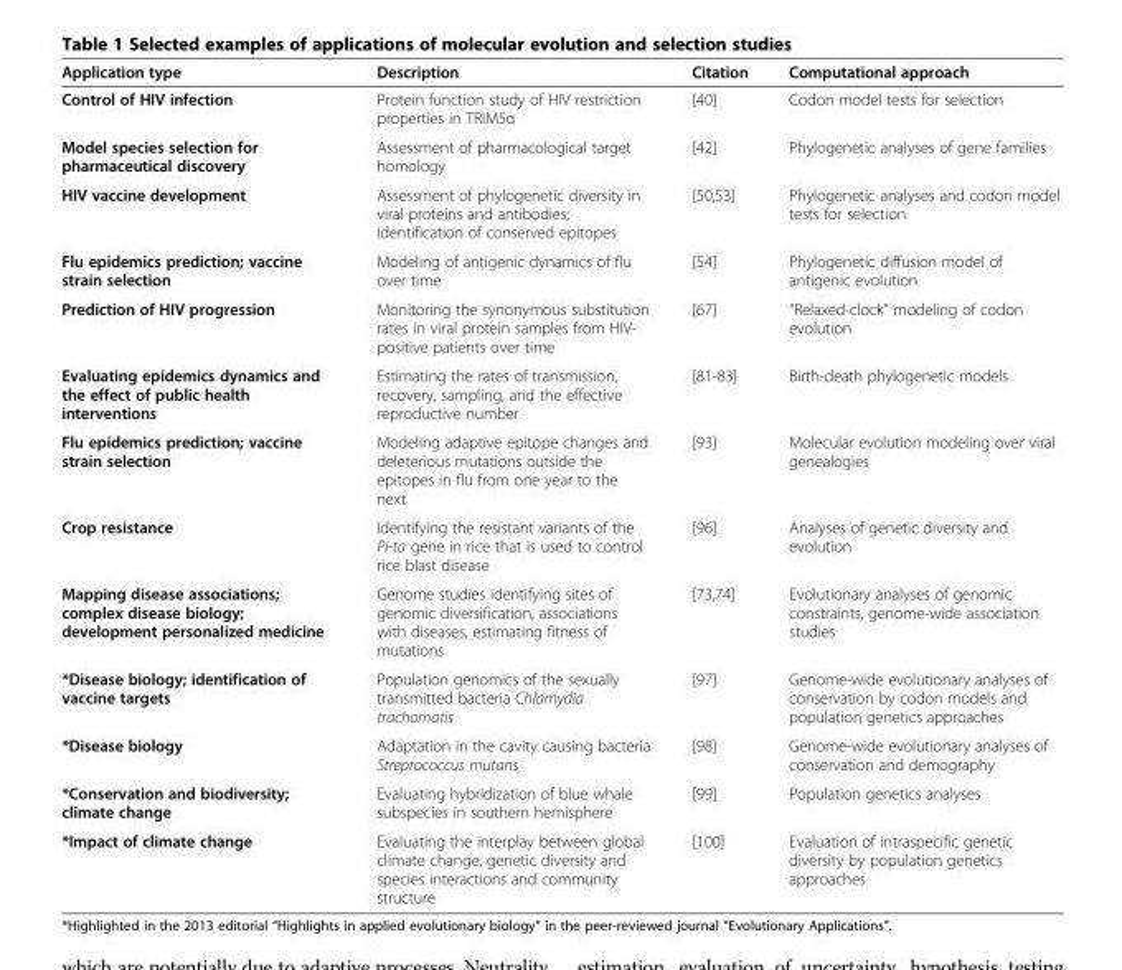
<table><thead><tr><td>Application type</td><td>Description</td><td>Citation</td><td>Computational approach</td></tr></thead><tbody><tr><td>Control of HIV infection</td><td>Protein function study of HIV restriction properties in TRIM5α</td><td>[40]</td><td>Codon model tests for selection</td></tr><tr><td>Model species selection for pharmaceutical discovery</td><td>Assessment of pharmacological target homology</td><td>[42]</td><td>Phylogenetic analyses of gene families</td></tr><tr><td>HIV vaccine development</td><td>Assessment of phylogenetic diversity in viral proteins and antibodies; identification of conserved epitopes</td><td>[50,53]</td><td>Phylogenetic analyses and codon model tests for selection</td></tr><tr><td>Flu epidemics prediction; vaccine strain selection</td><td>Modeling of antigenic dynamics of flu over time</td><td>[54]</td><td>Phylogenetic diffusion model of antigenic evolution</td></tr><tr><td>Prediction of HIV progression</td><td>Monitoring the synonymous substitution rates in viral protein samples from HIV- positive patients over time</td><td>[67]</td><td>“Relaxed-clock” modeling of codon evolution</td></tr><tr><td>Evaluating epidemics dynamics and the effect of public health interventions</td><td>Estimating the rates of transmission, recovery, sampling, and the effective reproductive number</td><td>[81-83]</td><td>Birth-death phylogenetic models</td></tr><tr><td>Flu epidemics prediction; vaccine strain selection</td><td>Modeling adaptive epitope changes and deleterious mutations outside the epitopes in flu from one year to the next</td><td>[93]</td><td>Molecular evolution modeling over viral genealogies</td></tr><tr><td>Crop resistance</td><td>Identifying the resistant variants of the Pi-ta gene in rice that is used to control rice blast disease</td><td>[96]</td><td>Analyses of genetic diversity and evolution</td></tr><tr><td>Mapping disease associations; complex disease biology; development personalized medicine</td><td>Genome studies identifying sites of genomic diversification, associations with diseases, estimating fitness of mutations</td><td>[73,74]</td><td>Evolutionary analyses of genomic constraints, genome-wide association studies</td></tr><tr><td>*Disease biology; identification of vaccine targets</td><td>Population genomics of the sexually transmitted bacteria Chlamydia trachomatis</td><td>[97]</td><td>Genome-wide evolutionary analyses of conservation by codon models and population genetics approaches</td></tr><tr><td>*Disease biology</td><td>Adaptation in the cavity causing bacteria Streptococcus mutans</td><td>[98]</td><td>Genome-wide evolutionary analyses of conservation and demography</td></tr><tr><td>*Conservation and biodiversity; climate change</td><td>Evaluating hybridization of blue whale subspecies in southern hemisphere</td><td>[99]</td><td>Population genetics analyses</td></tr><tr><td>*Impact of climate change</td><td>Evaluating the interplay between global climate change, genetic diversity and species interactions and community structure</td><td>[100]</td><td>Evaluation of intraspecific genetic diversity by population genetics approaches</td></tr></tbody></table>